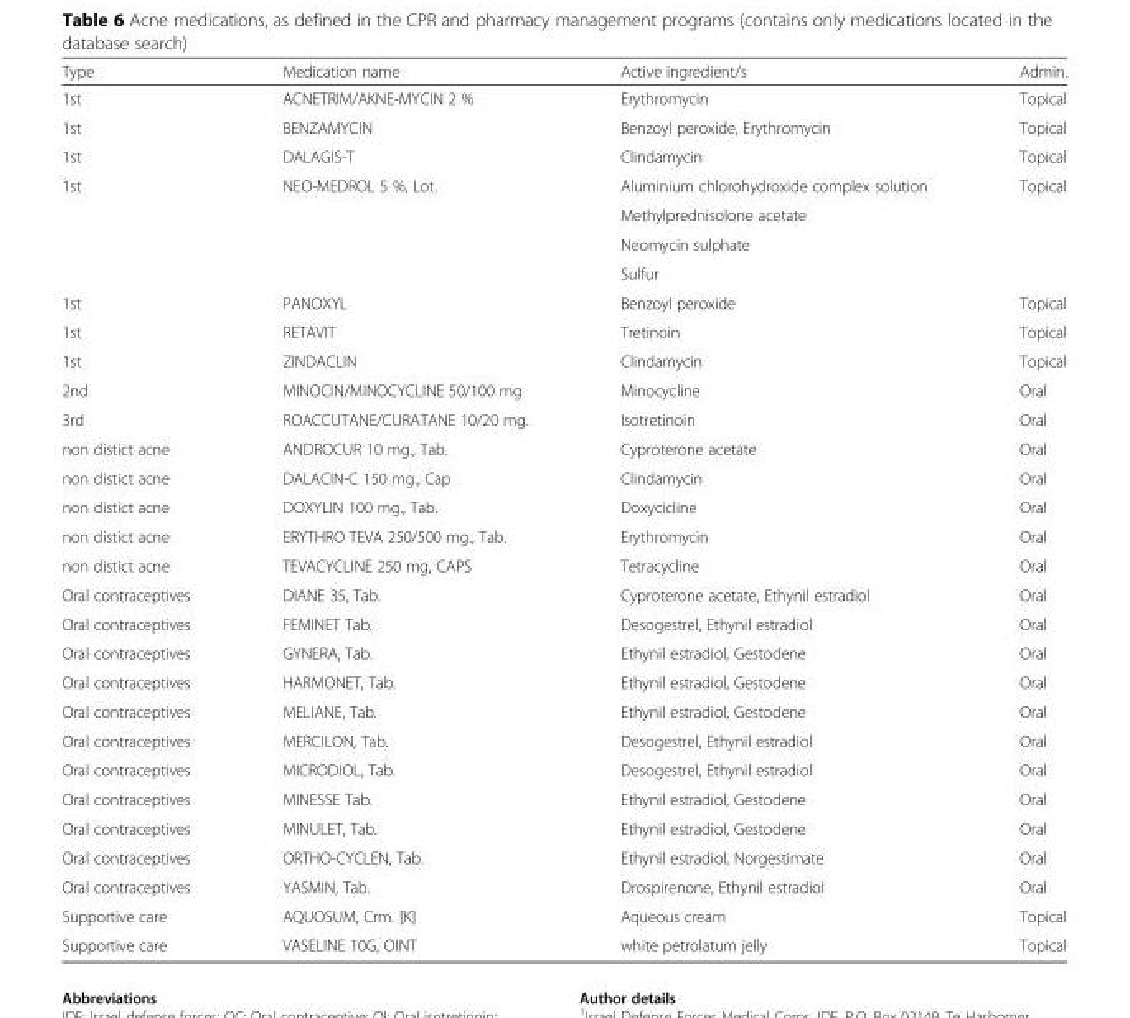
<table><thead><tr><td>Type</td><td>Medication name</td><td>Active ingredient/s</td><td>Admin.</td></tr></thead><tbody><tr><td>1st</td><td>ACNETRIM/AKNE-MYCIN 2 %</td><td>Erythromycin</td><td>Topical</td></tr><tr><td>1st</td><td>BENZAMYCIN</td><td>Benzoyl peroxide, Erythromycin</td><td>Topical</td></tr><tr><td>1st</td><td>DALAGIS-T</td><td>Clindamycin</td><td>Topical</td></tr><tr><td rowspan="4">1st</td><td rowspan="4">NEO-MEDROL 5 %, Lot.</td><td>Aluminium chlorohydroxide complex solution</td><td rowspan="4">Topical</td></tr><tr><td>Methylprednisolone acetate</td></tr><tr><td>Neomycin sulphate</td></tr><tr><td>Sulfur</td></tr><tr><td>1st</td><td>PANOXYL</td><td>Benzoyl peroxide</td><td>Topical</td></tr><tr><td>1st</td><td>RETAVIT</td><td>Tretinoin</td><td>Topical</td></tr><tr><td>1st</td><td>ZINDACLIN</td><td>Clindamycin</td><td>Topical</td></tr><tr><td>2nd</td><td>MINOCIN/MINOCYCLINE 50/100 mg</td><td>Minocycline</td><td>Oral</td></tr><tr><td>3rd</td><td>ROACCUTANE/CURATANE 10/20 mg.</td><td>Isotretinoin</td><td>Oral</td></tr><tr><td>non distict acne</td><td>ANDROCUR 10 mg., Tab.</td><td>Cyproterone acetate</td><td>Oral</td></tr><tr><td>non distict acne</td><td>DALACIN-C 150 mg., Cap</td><td>Clindamycin</td><td>Oral</td></tr><tr><td>non distict acne</td><td>DOXYLIN 100 mg., Tab.</td><td>Doxycicline</td><td>Oral</td></tr><tr><td>non distict acne</td><td>ERYTHRO TEVA 250/500 mg., Tab.</td><td>Erythromycin</td><td>Oral</td></tr><tr><td>non distict acne</td><td>TEVACYCLINE 250 mg, CAPS</td><td>Tetracycline</td><td>Oral</td></tr><tr><td>Oral contraceptives</td><td>DIANE 35, Tab.</td><td>Cyproterone acetate, Ethynil estradiol</td><td>Oral</td></tr><tr><td>Oral contraceptives</td><td>FEMINET Tab.</td><td>Desogestrel, Ethynil estradiol</td><td>Oral</td></tr><tr><td>Oral contraceptives</td><td>GYNERA, Tab.</td><td>Ethynil estradiol, Gestodene</td><td>Oral</td></tr><tr><td>Oral contraceptives</td><td>HARMONET, Tab.</td><td>Ethynil estradiol, Gestodene</td><td>Oral</td></tr><tr><td>Oral contraceptives</td><td>MELIANE, Tab.</td><td>Ethynil estradiol, Gestodene</td><td>Oral</td></tr><tr><td>Oral contraceptives</td><td>MERCILON, Tab.</td><td>Desogestrel, Ethynil estradiol</td><td>Oral</td></tr><tr><td>Oral contraceptives</td><td>MICRODIOL, Tab.</td><td>Desogestrel, Ethynil estradiol</td><td>Oral</td></tr><tr><td>Oral contraceptives</td><td>MINESSE Tab.</td><td>Ethynil estradiol, Gestodene</td><td>Oral</td></tr><tr><td>Oral contraceptives</td><td>MINULET, Tab.</td><td>Ethynil estradiol, Gestodene</td><td>Oral</td></tr><tr><td>Oral contraceptives</td><td>ORTHO-CYCLEN, Tab.</td><td>Ethynil estradiol, Norgestimate</td><td>Oral</td></tr><tr><td>Oral contraceptives</td><td>YASMIN, Tab.</td><td>Drospirenone, Ethynil estradiol</td><td>Oral</td></tr><tr><td>Supportive care</td><td>AQUOSUM, Crm. [K]</td><td>Aqueous cream</td><td>Topical</td></tr><tr><td>Supportive care</td><td>VASELINE 10G, OINT</td><td>white petrolatum jelly</td><td>Topical</td></tr></tbody></table>